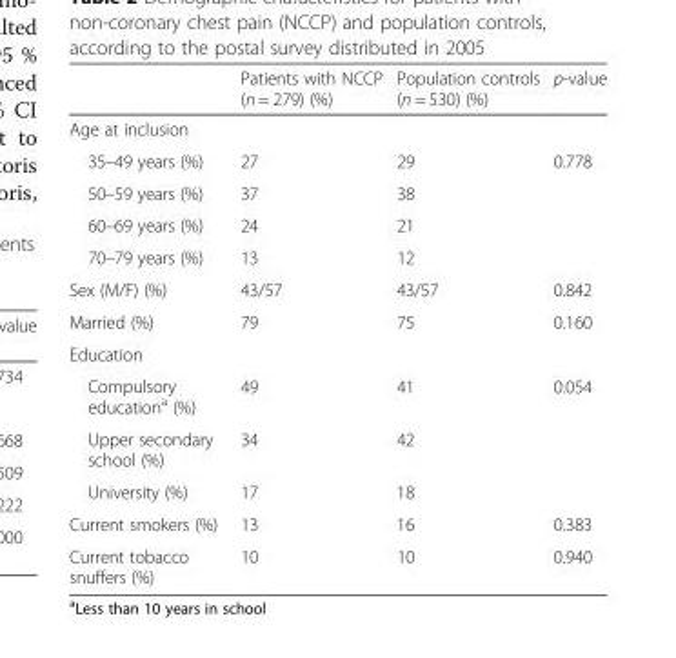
<table><thead><tr><td></td><td>Patients with NCCP (n = 279) (%)</td><td>Population controls (n = 530) (%)</td><td>p-value</td></tr></thead><tbody><tr><td colspan="4">Age at inclusion</td></tr><tr><td>35–49 years (%)</td><td>27</td><td>29</td><td rowspan="4">0.778</td></tr><tr><td>50–59 years (%)</td><td>37</td><td>38</td></tr><tr><td>60–69 years (%)</td><td>24</td><td>21</td></tr><tr><td>70–79 years (%)</td><td>13</td><td>12</td></tr><tr><td>Sex (M/F) (%)</td><td>43/57</td><td>43/57</td><td>0.842</td></tr><tr><td>Married (%)</td><td>79</td><td>75</td><td>0.160</td></tr><tr><td colspan="4">Education</td></tr><tr><td>Compulsory education<sup>a</sup> (%)</td><td>49</td><td>41</td><td rowspan="3">0.054</td></tr><tr><td>Upper secondary school (%)</td><td>34</td><td>42</td></tr><tr><td>University (%)</td><td>17</td><td>18</td></tr><tr><td>Current smokers (%)</td><td>13</td><td>16</td><td>0.383</td></tr><tr><td>Current tobacco snuffers (%)</td><td>10</td><td>10</td><td>0.940</td></tr></tbody></table>